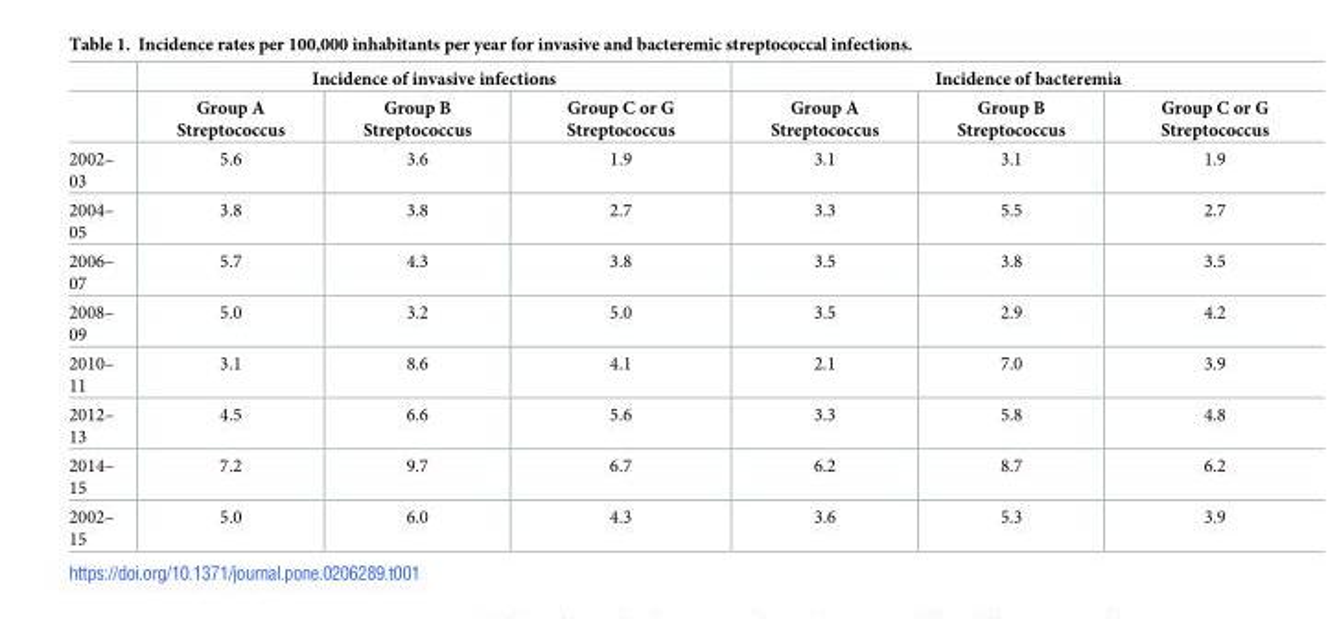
<table><thead><tr><td rowspan="2"></td><td colspan="3">Incidence of invasive infections</td><td colspan="3">Incidence of bacteremia</td></tr><tr><td>Group A Streptococcus</td><td>Group B Streptococcus</td><td>Group C or G Streptococcus</td><td>Group A Streptococcus</td><td>Group B Streptococcus</td><td>Group C or G Streptococcus</td></tr></thead><tbody><tr><td>2002– 03</td><td>5.6</td><td>3.6</td><td>1.9</td><td>3.1</td><td>3.1</td><td>1.9</td></tr><tr><td>2004– 05</td><td>3.8</td><td>3.8</td><td>2.7</td><td>3.3</td><td>5.5</td><td>2.7</td></tr><tr><td>2006– 07</td><td>5.7</td><td>4.3</td><td>3.8</td><td>3.5</td><td>3.8</td><td>3.5</td></tr><tr><td>2008– 09</td><td>5.0</td><td>3.2</td><td>5.0</td><td>3.5</td><td>2.9</td><td>4.2</td></tr><tr><td>2010– 11</td><td>3.1</td><td>8.6</td><td>4.1</td><td>2.1</td><td>7.0</td><td>3.9</td></tr><tr><td>2012– 13</td><td>4.5</td><td>6.6</td><td>5.6</td><td>3.3</td><td>5.8</td><td>4.8</td></tr><tr><td>2014– 15</td><td>7.2</td><td>9.7</td><td>6.7</td><td>6.2</td><td>8.7</td><td>6.2</td></tr><tr><td>2002– 15</td><td>5.0</td><td>6.0</td><td>4.3</td><td>3.6</td><td>5.3</td><td>3.9</td></tr></tbody></table>